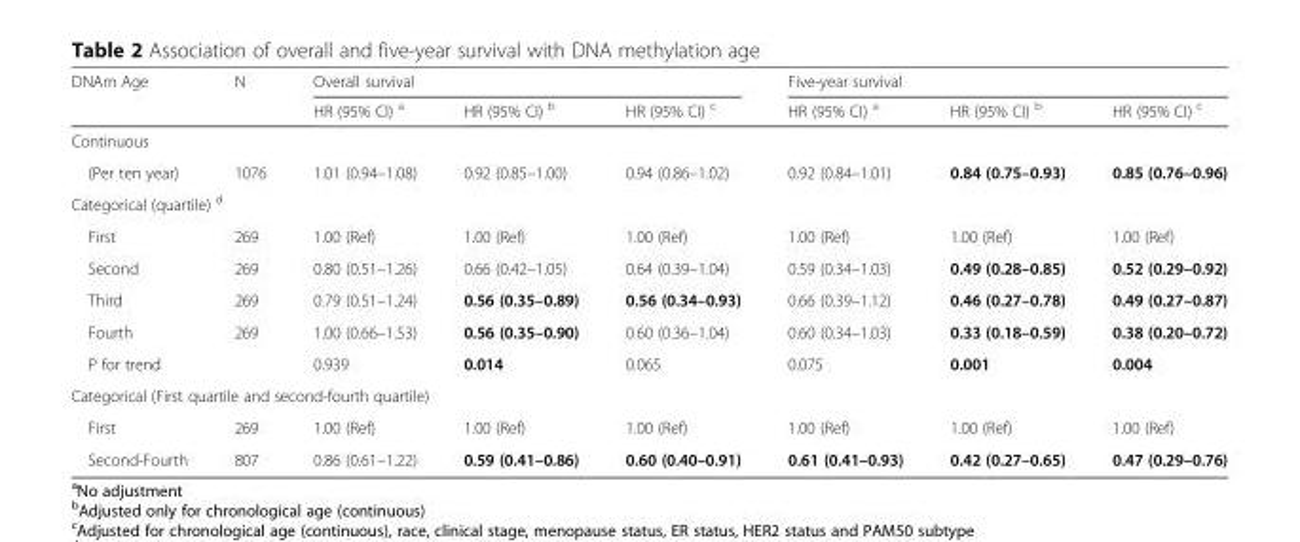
<table><thead><tr><td rowspan="2">DNAm Age</td><td rowspan="2">N</td><td colspan="3">Overall survival</td><td colspan="3">Five-year survival</td></tr><tr><td>HR (95% CI) <sup>a</sup></td><td>HR (95% CI) <sup>b</sup></td><td>HR (95% CI) <sup>c</sup></td><td>HR (95% CI) <sup>a</sup></td><td>HR (95% CI) <sup>b</sup></td><td>HR (95% CI) <sup>c</sup></td></tr></thead><tbody><tr><td colspan="8">Continuous</td></tr><tr><td>(Per ten year)</td><td>1076</td><td>1.01 (0.94–1.08)</td><td>0.92 (0.85–1.00)</td><td>0.94 (0.86–1.02)</td><td>0.92 (0.84–1.01)</td><td>0.84 (0.75–0.93)</td><td>0.85 (0.76–0.96)</td></tr><tr><td colspan="8">Categorical (quartile) <sup>d</sup></td></tr><tr><td>First</td><td>269</td><td>1.00 (Ref)</td><td>1.00 (Ref)</td><td>1.00 (Ref)</td><td>1.00 (Ref)</td><td>1.00 (Ref)</td><td>1.00 (Ref)</td></tr><tr><td>Second</td><td>269</td><td>0.80 (0.51–1.26)</td><td>0.66 (0.42–1.05)</td><td>0.64 (0.39–1.04)</td><td>0.59 (0.34–1.03)</td><td>0.49 (0.28–0.85)</td><td>0.52 (0.29–0.92)</td></tr><tr><td>Third</td><td>269</td><td>0.79 (0.51–1.24)</td><td>0.56 (0.35–0.89)</td><td>0.56 (0.34–0.93)</td><td>0.66 (0.39–1.12)</td><td>0.46 (0.27–0.78)</td><td>0.49 (0.27–0.87)</td></tr><tr><td>Fourth</td><td>269</td><td>1.00 (0.66–1.53)</td><td>0.56 (0.35–0.90)</td><td>0.60 (0.36–1.04)</td><td>0.60 (0.34–1.03)</td><td>0.33 (0.18–0.59)</td><td>0.38 (0.20–0.72)</td></tr><tr><td colspan="2">P for trend</td><td>0.939</td><td>0.014</td><td>0.065</td><td>0.075</td><td>0.001</td><td>0.004</td></tr><tr><td colspan="8">Categorical (First quartile and second-fourth quartile)</td></tr><tr><td>First</td><td>269</td><td>1.00 (Ref)</td><td>1.00 (Ref)</td><td>1.00 (Ref)</td><td>1.00 (Ref)</td><td>1.00 (Ref)</td><td>1.00 (Ref)</td></tr><tr><td>Second-Fourth</td><td>807</td><td>0.86 (0.61–1.22)</td><td>0.59 (0.41–0.86)</td><td>0.60 (0.40–0.91)</td><td>0.61 (0.41–0.93)</td><td>0.42 (0.27–0.65)</td><td>0.47 (0.29–0.76)</td></tr></tbody></table>